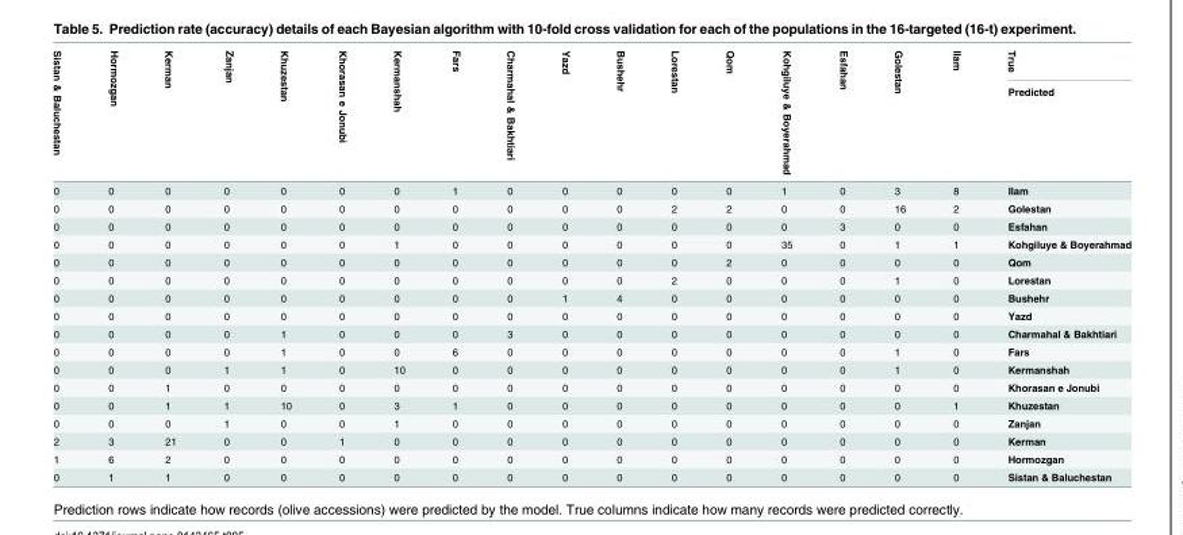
<table><thead><tr><td rowspan="2">Sistan &amp; Baluchestan</td><td rowspan="2">Hormozgan</td><td rowspan="2">Kerman</td><td rowspan="2">Zanjan</td><td rowspan="2">Khuzestan</td><td rowspan="2">Khorasan e Jonubi</td><td rowspan="2">Kermanshah</td><td rowspan="2">Fars</td><td rowspan="2">Charmahal &amp; Bakhtiari</td><td rowspan="2">Yazd</td><td rowspan="2">Bushehr</td><td rowspan="2">Lorestan</td><td rowspan="2">Qom</td><td rowspan="2">Kohgiluye &amp; Boyerahmad</td><td rowspan="2">Esfahan</td><td rowspan="2">Golestan</td><td rowspan="2">Ilam</td><td rowspan="2">True Predicted</td></tr><tr></tr></thead><tbody><tr><td>0</td><td>0</td><td>0</td><td>0</td><td>0</td><td>0</td><td>0</td><td>1</td><td>0</td><td>0</td><td>0</td><td>0</td><td>0</td><td>1</td><td>0</td><td>3</td><td>8</td><td>Ilam</td></tr><tr><td>0</td><td>0</td><td>0</td><td>0</td><td>0</td><td>0</td><td>0</td><td>0</td><td>0</td><td>0</td><td>0</td><td>2</td><td>2</td><td>0</td><td>0</td><td>16</td><td>2</td><td>Golestan</td></tr><tr><td>0</td><td>0</td><td>0</td><td>0</td><td>0</td><td>0</td><td>0</td><td>0</td><td>0</td><td>0</td><td>0</td><td>0</td><td>0</td><td>0</td><td>3</td><td>0</td><td>0</td><td>Esfahan</td></tr><tr><td>0</td><td>0</td><td>0</td><td>0</td><td>0</td><td>0</td><td>1</td><td>0</td><td>0</td><td>0</td><td>0</td><td>0</td><td>0</td><td>35</td><td>0</td><td>1</td><td>1</td><td>Kohgiluye &amp; Boyerahmad</td></tr><tr><td>0</td><td>0</td><td>0</td><td>0</td><td>0</td><td>0</td><td>0</td><td>0</td><td>0</td><td>0</td><td>0</td><td>0</td><td>2</td><td>0</td><td>0</td><td>0</td><td>0</td><td>Qom</td></tr><tr><td>0</td><td>0</td><td>0</td><td>0</td><td>0</td><td>0</td><td>0</td><td>0</td><td>0</td><td>0</td><td>0</td><td>2</td><td>0</td><td>0</td><td>0</td><td>1</td><td>0</td><td>Lorestan</td></tr><tr><td>0</td><td>0</td><td>0</td><td>0</td><td>0</td><td>0</td><td>0</td><td>0</td><td>0</td><td>1</td><td>4</td><td>0</td><td>0</td><td>0</td><td>0</td><td>0</td><td>0</td><td>Bushehr</td></tr><tr><td>0</td><td>0</td><td>0</td><td>0</td><td>0</td><td>0</td><td>0</td><td>0</td><td>0</td><td>0</td><td>0</td><td>0</td><td>0</td><td>0</td><td>0</td><td>0</td><td>0</td><td>Yazd</td></tr><tr><td>0</td><td>0</td><td>0</td><td>0</td><td>1</td><td>0</td><td>0</td><td>0</td><td>3</td><td>0</td><td>0</td><td>0</td><td>0</td><td>0</td><td>0</td><td>0</td><td>0</td><td>Charmahal &amp; Bakhtiari</td></tr><tr><td>0</td><td>0</td><td>0</td><td>0</td><td>1</td><td>0</td><td>0</td><td>6</td><td>0</td><td>0</td><td>0</td><td>0</td><td>0</td><td>0</td><td>0</td><td>1</td><td>0</td><td>Fars</td></tr><tr><td>0</td><td>0</td><td>0</td><td>1</td><td>1</td><td>0</td><td>10</td><td>0</td><td>0</td><td>0</td><td>0</td><td>0</td><td>0</td><td>0</td><td>0</td><td>1</td><td>0</td><td>Kermanshah</td></tr><tr><td>0</td><td>0</td><td>1</td><td>0</td><td>0</td><td>0</td><td>0</td><td>0</td><td>0</td><td>0</td><td>0</td><td>0</td><td>0</td><td>0</td><td>0</td><td>0</td><td>0</td><td>Khorasan e Jonubi</td></tr><tr><td>0</td><td>0</td><td>1</td><td>1</td><td>10</td><td>0</td><td>3</td><td>1</td><td>0</td><td>0</td><td>0</td><td>0</td><td>0</td><td>0</td><td>0</td><td>0</td><td>1</td><td>Khuzestan</td></tr><tr><td>0</td><td>0</td><td>0</td><td>1</td><td>0</td><td>0</td><td>1</td><td>0</td><td>0</td><td>0</td><td>0</td><td>0</td><td>0</td><td>0</td><td>0</td><td>0</td><td>0</td><td>Zanjan</td></tr><tr><td>2</td><td>3</td><td>21</td><td>0</td><td>0</td><td>1</td><td>0</td><td>0</td><td>0</td><td>0</td><td>0</td><td>0</td><td>0</td><td>0</td><td>0</td><td>0</td><td>0</td><td>Kerman</td></tr><tr><td>1</td><td>6</td><td>2</td><td>0</td><td>0</td><td>0</td><td>0</td><td>0</td><td>0</td><td>0</td><td>0</td><td>0</td><td>0</td><td>0</td><td>0</td><td>0</td><td>0</td><td>Hormozgan</td></tr><tr><td>0</td><td>1</td><td>1</td><td>0</td><td>0</td><td>0</td><td>0</td><td>0</td><td>0</td><td>0</td><td>0</td><td>0</td><td>0</td><td>0</td><td>0</td><td>0</td><td>0</td><td>Sistan &amp; Baluchestan</td></tr></tbody></table>